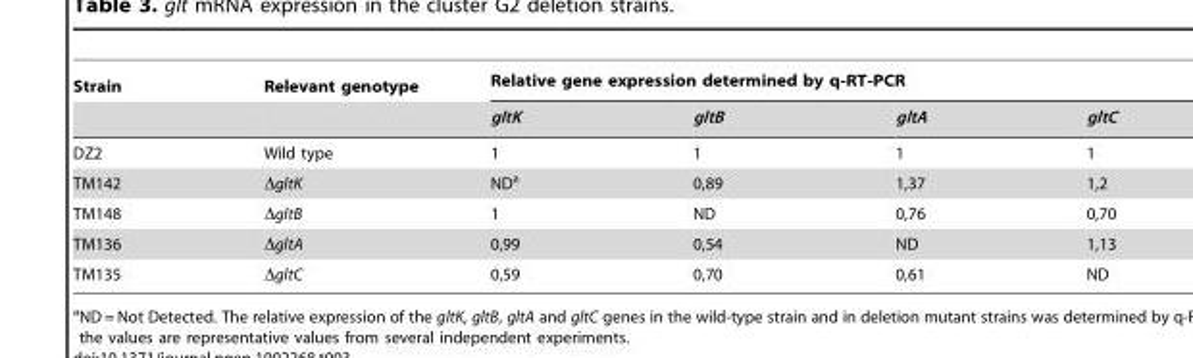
<table><thead><tr><td rowspan="2">Strain</td><td rowspan="2">Relevant genotype</td><td colspan="4">Relative gene expression determined by q-RT-PCR</td></tr><tr><td>gltK</td><td>gltB</td><td>gltA</td><td>gltC</td></tr></thead><tbody><tr><td>DZ2</td><td>Wild type</td><td>1</td><td>1</td><td>1</td><td>1</td></tr><tr><td>TM142</td><td>ΔgltK</td><td>ND<sup>a</sup></td><td>0,89</td><td>1,37</td><td>1,2</td></tr><tr><td>TM148</td><td>ΔgltB</td><td>1</td><td>ND</td><td>0,76</td><td>0,70</td></tr><tr><td>TM136</td><td>ΔgltA</td><td>0,99</td><td>0,54</td><td>ND</td><td>1,13</td></tr><tr><td>TM135</td><td>ΔgltC</td><td>0,59</td><td>0,70</td><td>0,61</td><td>ND</td></tr></tbody></table>